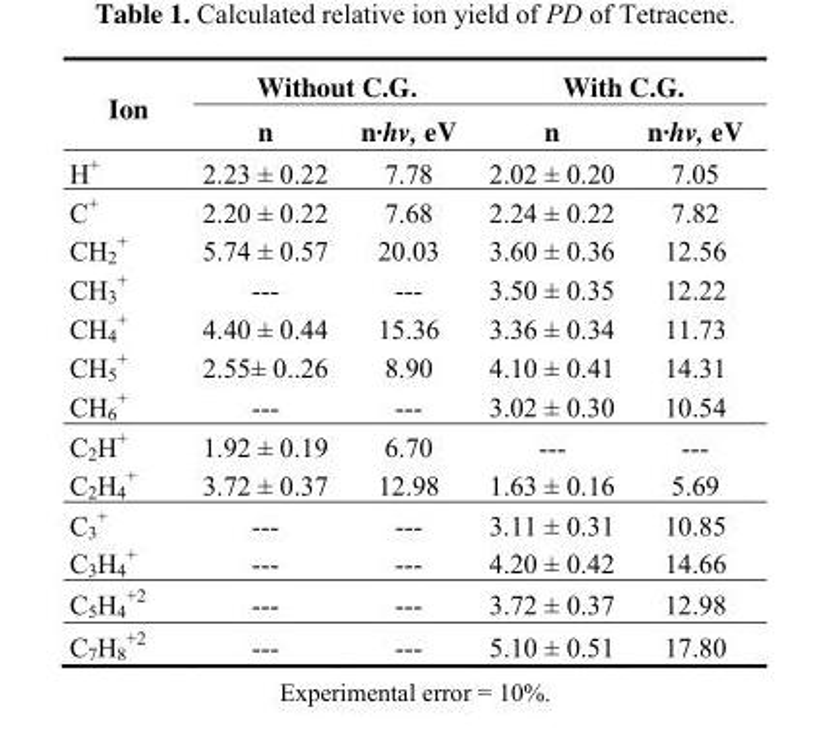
<table><thead><tr><td rowspan="2">Ion</td><td colspan="2">Without C.G.</td><td colspan="2">With C.G.</td></tr><tr><td>n</td><td>n·hν, eV</td><td>n</td><td>n·hv, eV</td></tr></thead><tbody><tr><td>H<sup>+</sup></td><td>2.23 ± 0.22</td><td>7.78</td><td>2.02 ± 0.20</td><td>7.05</td></tr><tr><td>C<sup>+</sup></td><td>2.20 ± 0.22</td><td>7.68</td><td>2.24 ± 0.22</td><td>7.82</td></tr><tr><td>CH<sub>2</sub> <sup>+</sup></td><td>5.74 ± 0.57</td><td>20.03</td><td>3.60 ± 0.36</td><td>12.56</td></tr><tr><td>CH<sub>3</sub> <sup>+</sup></td><td>---</td><td>---</td><td>3.50 ± 0.35</td><td>12.22</td></tr><tr><td>CH<sub>4</sub> <sup>+</sup></td><td>4.40 ± 0.44</td><td>15.36</td><td>3.36 ± 0.34</td><td>11.73</td></tr><tr><td>CH<sub>5</sub> <sup>+</sup></td><td>2.55± 0..26</td><td>8.90</td><td>4.10 ± 0.41</td><td>14.31</td></tr><tr><td>CH<sub>6</sub> <sup>+</sup></td><td>---</td><td>---</td><td>3.02 ± 0.30</td><td>10.54</td></tr><tr><td>C<sub>2</sub>H<sup>+</sup></td><td>1.92 ± 0.19</td><td>6.70</td><td>---</td><td>---</td></tr><tr><td>C<sub>2</sub>H<sub>4</sub> <sup>+</sup></td><td>3.72 ± 0.37</td><td>12.98</td><td>1.63 ± 0.16</td><td>5.69</td></tr><tr><td>C<sub>3</sub> <sup>+</sup></td><td>---</td><td>---</td><td>3.11 ± 0.31</td><td>10.85</td></tr><tr><td>C<sub>3</sub>H<sub>4</sub> <sup>+</sup></td><td>---</td><td>---</td><td>4.20 ± 0.42</td><td>14.66</td></tr><tr><td>C<sub>5</sub>H<sub>4</sub> <sup>+2</sup></td><td>---</td><td>---</td><td>3.72 ± 0.37</td><td>12.98</td></tr><tr><td>C<sub>7</sub>H<sub>8</sub> <sup>+2</sup></td><td>---</td><td>---</td><td>5.10 ± 0.51</td><td>17.80</td></tr></tbody></table>